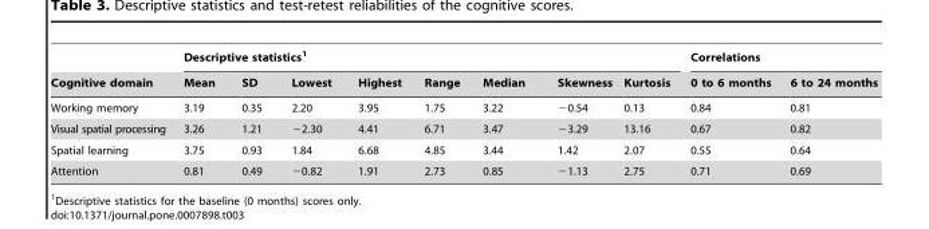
<table><thead><tr><td rowspan="2">Cognitive domain</td><td colspan="8">Descriptive statistics<sup>1</sup></td><td colspan="2">Correlations</td></tr><tr><td>Mean</td><td>SD</td><td>Lowest</td><td>Highest</td><td>Range</td><td>Median</td><td>Skewness</td><td>Kurtosis</td><td>0 to 6 months</td><td>6 to 24 months</td></tr></thead><tbody><tr><td>Working memory</td><td>3.19</td><td>0.35</td><td>2.20</td><td>3.95</td><td>1.75</td><td>3.22</td><td>−0.54</td><td>0.13</td><td>0.84</td><td>0.81</td></tr><tr><td>Visual spatial processing</td><td>3.26</td><td>1.21</td><td>−2.30</td><td>4.41</td><td>6.71</td><td>3.47</td><td>−3.29</td><td>13.16</td><td>0.67</td><td>0.82</td></tr><tr><td>Spatial learning</td><td>3.75</td><td>0.93</td><td>1.84</td><td>6.68</td><td>4.85</td><td>3.44</td><td>1.42</td><td>2.07</td><td>0.55</td><td>0.64</td></tr><tr><td>Attention</td><td>0.81</td><td>0.49</td><td>−0.82</td><td>1.91</td><td>2.73</td><td>0.85</td><td>−1.13</td><td>2.75</td><td>0.71</td><td>0.69</td></tr></tbody></table>